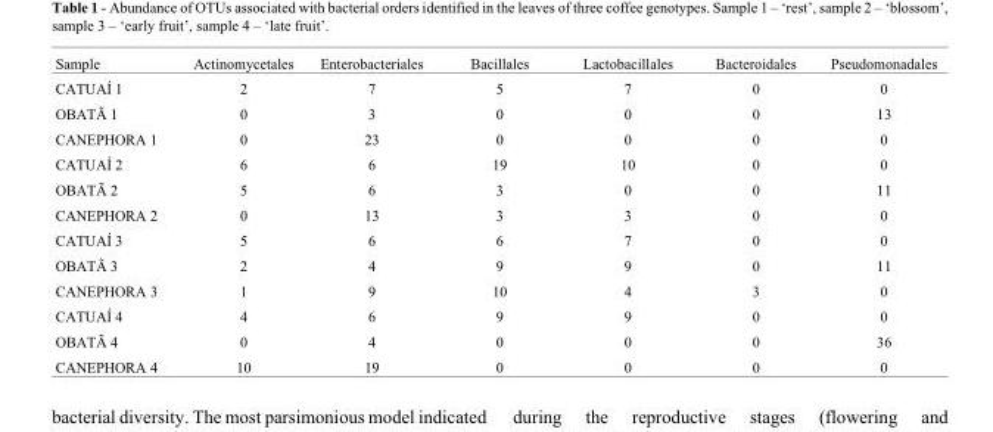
<table><thead><tr><td>Sample</td><td>Actinomycetales</td><td>Enterobacteriales</td><td>Bacillales</td><td>Lactobacillales</td><td>Bacteroidales</td><td>Pseudomonadales</td></tr></thead><tbody><tr><td>CATUAÍ 1</td><td>2</td><td>7</td><td>5</td><td>7</td><td>0</td><td>0</td></tr><tr><td>OBATÃ 1</td><td>0</td><td>3</td><td>0</td><td>0</td><td>0</td><td>13</td></tr><tr><td>CANEPHORA 1</td><td>0</td><td>23</td><td>0</td><td>0</td><td>0</td><td>0</td></tr><tr><td>CATUAÍ 2</td><td>6</td><td>6</td><td>19</td><td>10</td><td>0</td><td>0</td></tr><tr><td>OBATÃ 2</td><td>5</td><td>6</td><td>3</td><td>0</td><td>0</td><td>11</td></tr><tr><td>CANEPHORA 2</td><td>0</td><td>13</td><td>3</td><td>3</td><td>0</td><td>0</td></tr><tr><td>CATUAÍ 3</td><td>5</td><td>6</td><td>6</td><td>7</td><td>0</td><td>0</td></tr><tr><td>OBATÃ 3</td><td>2</td><td>4</td><td>9</td><td>9</td><td>0</td><td>11</td></tr><tr><td>CANEPHORA 3</td><td>1</td><td>9</td><td>10</td><td>4</td><td>3</td><td>0</td></tr><tr><td>CATUAÍ 4</td><td>4</td><td>6</td><td>9</td><td>9</td><td>0</td><td>0</td></tr><tr><td>OBATÃ 4</td><td>0</td><td>4</td><td>0</td><td>0</td><td>0</td><td>36</td></tr><tr><td>CANEPHORA 4</td><td>10</td><td>19</td><td>0</td><td>0</td><td>0</td><td>0</td></tr></tbody></table>